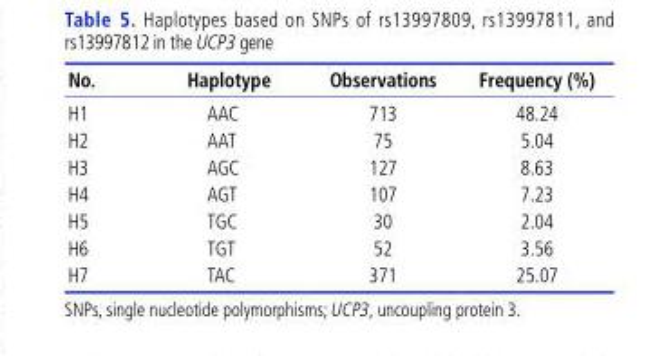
<table><thead><tr><td>No.</td><td>Haplotype</td><td>Observations</td><td>Frequency (%)</td></tr></thead><tbody><tr><td>H1</td><td>AAC</td><td>713</td><td>48.24</td></tr><tr><td>H2</td><td>AAT</td><td>75</td><td>5.04</td></tr><tr><td>H3</td><td>AGC</td><td>127</td><td>8.63</td></tr><tr><td>H4</td><td>AGT</td><td>107</td><td>7.23</td></tr><tr><td>H5</td><td>TGC</td><td>30</td><td>2.04</td></tr><tr><td>H6</td><td>TGT</td><td>52</td><td>3.56</td></tr><tr><td>H7</td><td>TAC</td><td>371</td><td>25.07</td></tr></tbody></table>